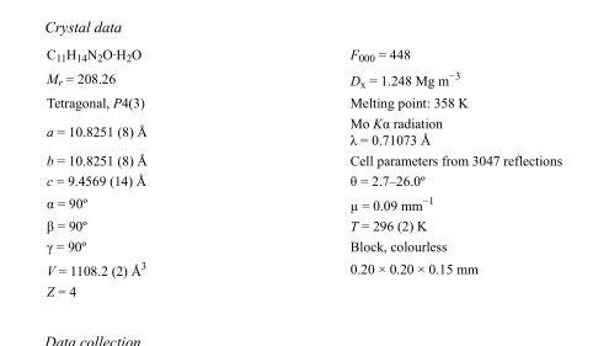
<table><tbody><tr><td>C<sub>11</sub>H<sub>14</sub>N<sub>2</sub>O·H<sub>2</sub>O</td><td>F<sub>000</sub> = 448</td></tr><tr><td>M<sub>r</sub> = 208.26</td><td>D<sub>x</sub> = 1.248 Mg m<sup>−3</sup></td></tr><tr><td>Tetragonal, P4(3)</td><td>Melting point: 358 K</td></tr><tr><td>a = 10.8251 (8) Å</td><td>Mo Kα radiation λ = 0.71073 Å</td></tr><tr><td>b = 10.8251 (8) Å</td><td>Cell parameters from 3047 reflections</td></tr><tr><td>c = 9.4569 (14) Å</td><td>θ = 2.7–26.0º</td></tr><tr><td>α = 90º</td><td>µ = 0.09 mm<sup>−1</sup></td></tr><tr><td>β = 90º</td><td>T = 296 (2) K</td></tr><tr><td>γ = 90º</td><td>Block, colourless</td></tr><tr><td>V = 1108.2 (2) Å<sup>3</sup></td><td>0.20 × 0.20 × 0.15 mm</td></tr><tr><td>Z = 4</td><td></td></tr></tbody></table>